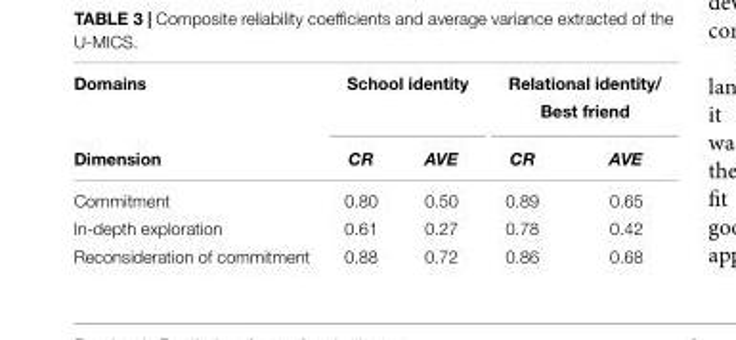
<table><thead><tr><td rowspan="2">Domains Dimension</td><td colspan="2">School identity</td><td colspan="2">Relational identity/ Best friend</td></tr><tr><td>CR</td><td>AVE</td><td>CR</td><td>AVE</td></tr></thead><tbody><tr><td>Commitment</td><td>0.80</td><td>0.50</td><td>0.89</td><td>0.65</td></tr><tr><td>In-depth exploration</td><td>0.61</td><td>0.27</td><td>0.78</td><td>0.42</td></tr><tr><td>Reconsideration of commitment</td><td>0.88</td><td>0.72</td><td>0.86</td><td>0.68</td></tr></tbody></table>